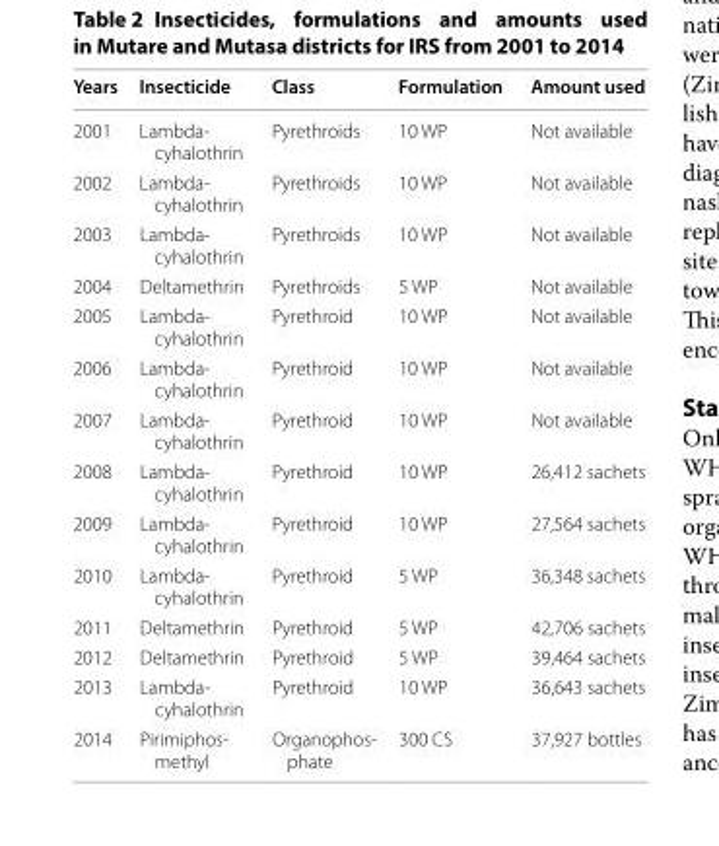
<table><thead><tr><td>Years</td><td>Insecticide</td><td>Class</td><td>Formulation</td><td>Amount used</td></tr></thead><tbody><tr><td>2001</td><td>Lambda- cyhalothrin</td><td>Pyrethroids</td><td>10 WP</td><td>Not available</td></tr><tr><td>2002</td><td>Lambda- cyhalothrin</td><td>Pyrethroids</td><td>10 WP</td><td>Not available</td></tr><tr><td>2003</td><td>Lambda- cyhalothrin</td><td>Pyrethroids</td><td>10 WP</td><td>Not available</td></tr><tr><td>2004</td><td>Deltamethrin</td><td>Pyrethroids</td><td>5 WP</td><td>Not available</td></tr><tr><td>2005</td><td>Lambda- cyhalothrin</td><td>Pyrethroid</td><td>10 WP</td><td>Not available</td></tr><tr><td>2006</td><td>Lambda- cyhalothrin</td><td>Pyrethroid</td><td>10 WP</td><td>Not available</td></tr><tr><td>2007</td><td>Lambda- cyhalothrin</td><td>Pyrethroid</td><td>10 WP</td><td>Not available</td></tr><tr><td>2008</td><td>Lambda- cyhalothrin</td><td>Pyrethroid</td><td>10 WP</td><td>26,412 sachets</td></tr><tr><td>2009</td><td>Lambda- cyhalothrin</td><td>Pyrethroid</td><td>10 WP</td><td>27,564 sachets</td></tr><tr><td>2010</td><td>Lambda- cyhalothrin</td><td>Pyrethroid</td><td>5 WP</td><td>36,348 sachets</td></tr><tr><td>2011</td><td>Deltamethrin</td><td>Pyrethroid</td><td>5 WP</td><td>42,706 sachets</td></tr><tr><td>2012</td><td>Deltamethrin</td><td>Pyrethroid</td><td>5 WP</td><td>39,464 sachets</td></tr><tr><td>2013</td><td>Lambda- cyhalothrin</td><td>Pyrethroid</td><td>10 WP</td><td>36,643 sachets</td></tr><tr><td>2014</td><td>Pirimiphos- methyl</td><td>Organophos- phate</td><td>300 CS</td><td>37,927 bottles</td></tr></tbody></table>